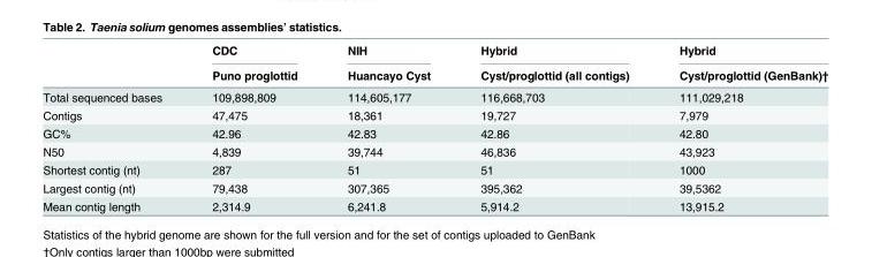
<table><thead><tr><td rowspan="2"></td><td rowspan="2">CDC Puno proglottid</td><td rowspan="2">NIH Huancayo Cyst</td><td rowspan="2">Hybrid Cyst/proglottid (all contigs)</td><td rowspan="2">Hybrid Cyst/proglottid (GenBank)†</td></tr><tr></tr></thead><tbody><tr><td>Total sequenced bases</td><td>109,898,809</td><td>114,605,177</td><td>116,668,703</td><td>111,029,218</td></tr><tr><td>Contigs</td><td>47,475</td><td>18,361</td><td>19,727</td><td>7,979</td></tr><tr><td>GC%</td><td>42.96</td><td>42.83</td><td>42.86</td><td>42.80</td></tr><tr><td>N50</td><td>4,839</td><td>39,744</td><td>46,836</td><td>43,923</td></tr><tr><td>Shortest contig (nt)</td><td>287</td><td>51</td><td>51</td><td>1000</td></tr><tr><td>Largest contig (nt)</td><td>79,438</td><td>307,365</td><td>395,362</td><td>39,5362</td></tr><tr><td>Mean contig length</td><td>2,314.9</td><td>6,241.8</td><td>5,914.2</td><td>13,915.2</td></tr></tbody></table>